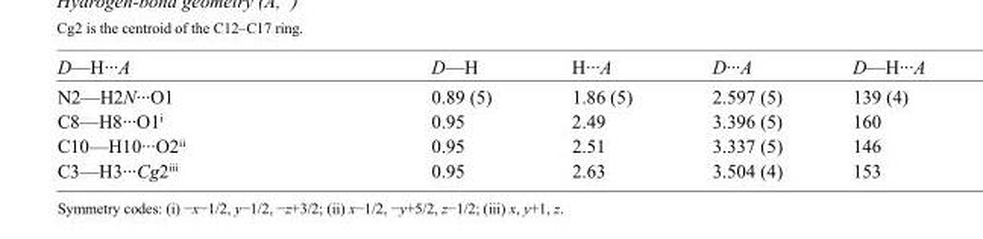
<table><tbody><tr><td>D—H···A</td><td>D—H</td><td>H···A</td><td>D···A</td><td>D—H···A</td></tr><tr><td>N2—H2N···O1</td><td>0.89 (5)</td><td>1.86 (5)</td><td>2.597 (5)</td><td>139 (4)</td></tr><tr><td>C8—H8···O1<sup>i</sup></td><td>0.95</td><td>2.49</td><td>3.396 (5)</td><td>160</td></tr><tr><td>C10—H10···O2<sup>ii</sup></td><td>0.95</td><td>2.51</td><td>3.337 (5)</td><td>146</td></tr><tr><td>C3—H3···Cg2<sup>iii</sup></td><td>0.95</td><td>2.63</td><td>3.504 (4)</td><td>153</td></tr></tbody></table>